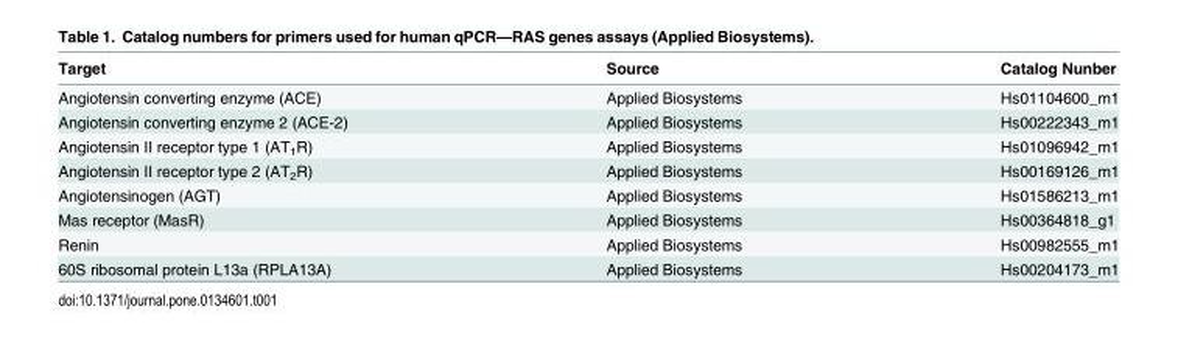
<table><thead><tr><td>Target</td><td>Source</td><td>Catalog Nunber</td></tr></thead><tbody><tr><td>Angiotensin converting enzyme (ACE)</td><td>Applied Biosystems</td><td>Hs01104600_m1</td></tr><tr><td>Angiotensin converting enzyme 2 (ACE-2)</td><td>Applied Biosystems</td><td>Hs00222343_m1</td></tr><tr><td>Angiotensin II receptor type 1 (AT<sub>1</sub>R)</td><td>Applied Biosystems</td><td>Hs01096942_m1</td></tr><tr><td>Angiotensin II receptor type 2 (AT<sub>2</sub>R)</td><td>Applied Biosystems</td><td>Hs00169126_m1</td></tr><tr><td>Angiotensinogen (AGT)</td><td>Applied Biosystems</td><td>Hs01586213_m1</td></tr><tr><td>Mas receptor (MasR)</td><td>Applied Biosystems</td><td>Hs00364818_g1</td></tr><tr><td>Renin</td><td>Applied Biosystems</td><td>Hs00982555_m1</td></tr><tr><td>60S ribosomal protein L13a (RPLA13A)</td><td>Applied Biosystems</td><td>Hs00204173_m1</td></tr></tbody></table>